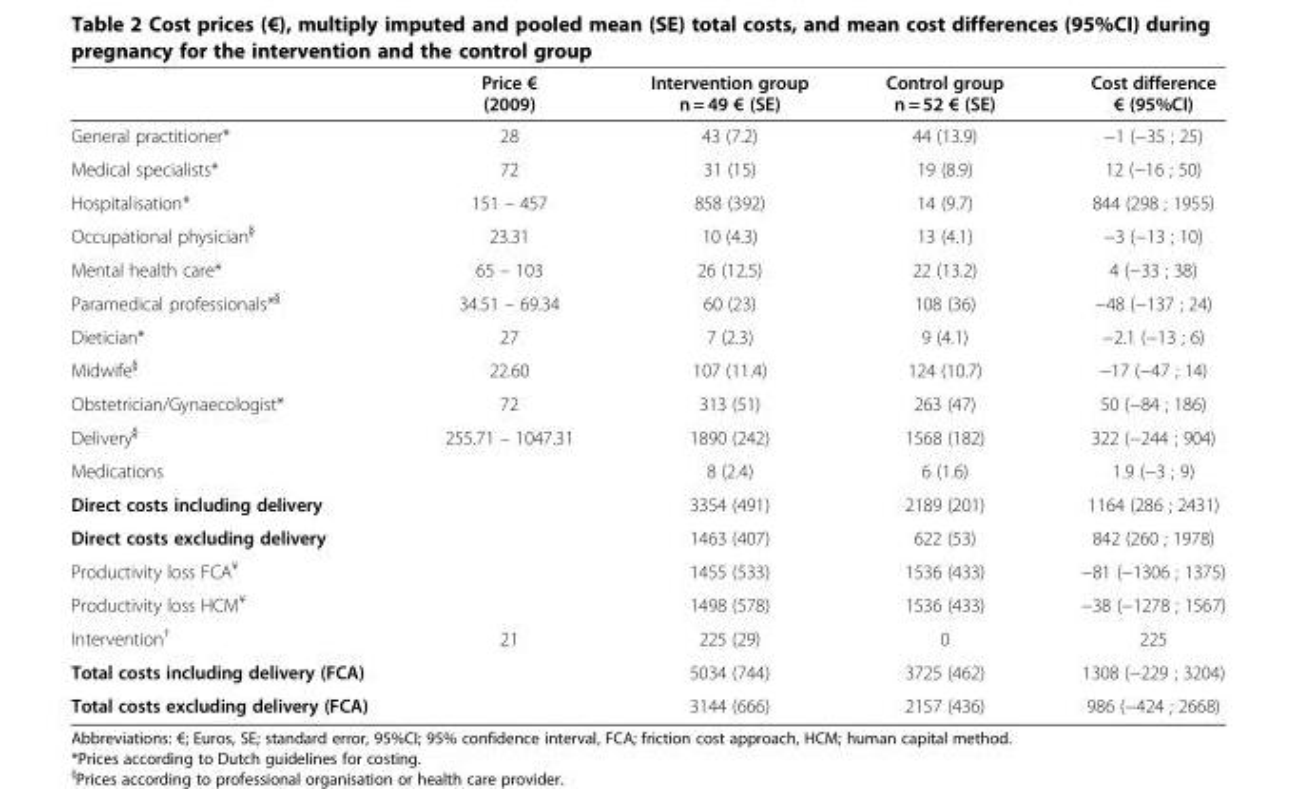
<table><thead><tr><td></td><td>Price € (2009)</td><td>Intervention group n = 49 € (SE)</td><td>Control group n = 52 € (SE)</td><td>Cost difference € (95%CI)</td></tr></thead><tbody><tr><td>General practitioner*</td><td>28</td><td>43 (7.2)</td><td>44 (13.9)</td><td>−1 (−35 ; 25)</td></tr><tr><td>Medical specialists*</td><td>72</td><td>31 (15)</td><td>19 (8.9)</td><td>12 (−16 ; 50)</td></tr><tr><td>Hospitalisation*</td><td>151 – 457</td><td>858 (392)</td><td>14 (9.7)</td><td>844 (298 ; 1955)</td></tr><tr><td>Occupational physician<sup>§</sup></td><td>23.31</td><td>10 (4.3)</td><td>13 (4.1)</td><td>−3 (−13 ; 10)</td></tr><tr><td>Mental health care*</td><td>65 – 103</td><td>26 (12.5)</td><td>22 (13.2)</td><td>4 (−33 ; 38)</td></tr><tr><td>Paramedical professionals*<sup>§</sup></td><td>34.51 – 69.34</td><td>60 (23)</td><td>108 (36)</td><td>−48 (−137 ; 24)</td></tr><tr><td>Dietician*</td><td>27</td><td>7 (2.3)</td><td>9 (4.1)</td><td>−2.1 (−13 ; 6)</td></tr><tr><td>Midwife<sup>§</sup></td><td>22.60</td><td>107 (11.4)</td><td>124 (10.7)</td><td>−17 (−47 ; 14)</td></tr><tr><td>Obstetrician/Gynaecologist*</td><td>72</td><td>313 (51)</td><td>263 (47)</td><td>50 (−84 ; 186)</td></tr><tr><td>Delivery<sup>§</sup></td><td>255.71 – 1047.31</td><td>1890 (242)</td><td>1568 (182)</td><td>322 (−244 ; 904)</td></tr><tr><td>Medications</td><td></td><td>8 (2.4)</td><td>6 (1.6)</td><td>1.9 (−3 ; 9)</td></tr><tr><td>Direct costs including delivery</td><td></td><td>3354 (491)</td><td>2189 (201)</td><td>1164 (286 ; 2431)</td></tr><tr><td>Direct costs excluding delivery</td><td></td><td>1463 (407)</td><td>622 (53)</td><td>842 (260 ; 1978)</td></tr><tr><td>Productivity loss FCA<sup>¥</sup></td><td></td><td>1455 (533)</td><td>1536 (433)</td><td>−81 (−1306 ; 1375)</td></tr><tr><td>Productivity loss HCM<sup>¥</sup></td><td></td><td>1498 (578)</td><td>1536 (433)</td><td>−38 (−1278 ; 1567)</td></tr><tr><td>Intervention<sup>†</sup></td><td>21</td><td>225 (29)</td><td>0</td><td>225</td></tr><tr><td>Total costs including delivery (FCA)</td><td></td><td>5034 (744)</td><td>3725 (462)</td><td>1308 (−229 ; 3204)</td></tr><tr><td>Total costs excluding delivery (FCA)</td><td></td><td>3144 (666)</td><td>2157 (436)</td><td>986 (−424 ; 2668)</td></tr></tbody></table>